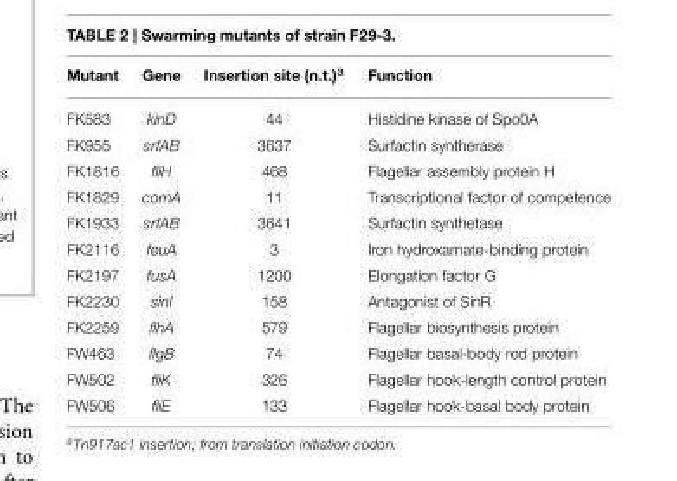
<table><thead><tr><td>Mutant</td><td>Gene</td><td>Insertion site (n.t.)<sup>a</sup></td><td>Function</td></tr></thead><tbody><tr><td>FK583</td><td>kinD</td><td>44</td><td>Histidine kinase of Spo0A</td></tr><tr><td>FK955</td><td>srfAB</td><td>3637</td><td>Surfactin syntherase</td></tr><tr><td>FK1816</td><td>fliH</td><td>468</td><td>Flagellar assembly protein H</td></tr><tr><td>FK1829</td><td>comA</td><td>11</td><td>Transcriptional factor of competence</td></tr><tr><td>FK1933</td><td>srfAB</td><td>3641</td><td>Surfactin synthetase</td></tr><tr><td>FK2116</td><td>feuA</td><td>3</td><td>Iron hydroxamate-binding protein</td></tr><tr><td>FK2197</td><td>fusA</td><td>1200</td><td>Elongation factor G</td></tr><tr><td>FK2230</td><td>sinI</td><td>158</td><td>Antagonist of SinR</td></tr><tr><td>FK2259</td><td>flhA</td><td>579</td><td>Flagellar biosynthesis protein</td></tr><tr><td>FW463</td><td>flgB</td><td>74</td><td>Flagellar basal-body rod protein</td></tr><tr><td>FW502</td><td>fliK</td><td>326</td><td>Flagellar hook-length control protein</td></tr><tr><td>FW506</td><td>fliE</td><td>133</td><td>Flagellar hook-basal body protein</td></tr></tbody></table>